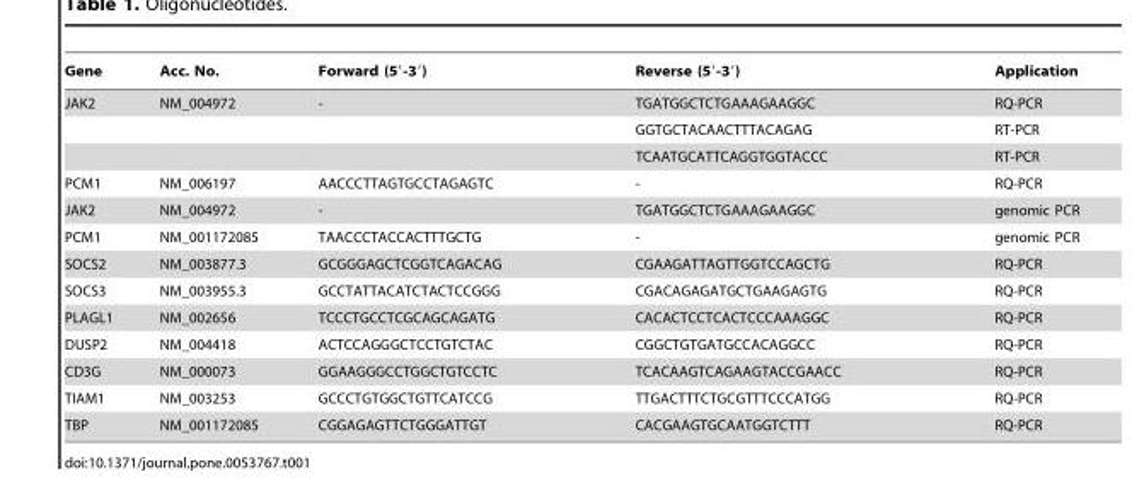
<table><thead><tr><td>Gene</td><td>Acc. No.</td><td>Forward (5′-3′)</td><td>Reverse (5′-3′)</td><td>Application</td></tr></thead><tbody><tr><td rowspan="3">JAK2</td><td>NM_004972</td><td>-</td><td>TGATGGCTCTGAAAGAAGGC</td><td>RQ-PCR</td></tr><tr><td></td><td></td><td>GGTGCTACAACTTTACAGAG</td><td>RT-PCR</td></tr><tr><td></td><td></td><td>TCAATGCATTCAGGTGGTACCC</td><td>RT-PCR</td></tr><tr><td>PCM1</td><td>NM_006197</td><td>AACCCTTAGTGCCTAGAGTC</td><td>-</td><td>RQ-PCR</td></tr><tr><td>JAK2</td><td>NM_004972</td><td>-</td><td>TGATGGCTCTGAAAGAAGGC</td><td>genomic PCR</td></tr><tr><td>PCM1</td><td>NM_001172085</td><td>TAACCCTACCACTTTGCTG</td><td>-</td><td>genomic PCR</td></tr><tr><td>SOCS2</td><td>NM_003877.3</td><td>GCGGGAGCTCGGTCAGACAG</td><td>CGAAGATTAGTTGGTCCAGCTG</td><td>RQ-PCR</td></tr><tr><td>SOCS3</td><td>NM_003955.3</td><td>GCCTATTACATCTACTCCGGG</td><td>CGACAGAGATGCTGAAGAGTG</td><td>RQ-PCR</td></tr><tr><td>PLAGL1</td><td>NM_002656</td><td>TCCCTGCCTCGCAGCAGATG</td><td>CACACTCCTCACTCCCAAAGGC</td><td>RQ-PCR</td></tr><tr><td>DUSP2</td><td>NM_004418</td><td>ACTCCAGGGCTCCTGTCTAC</td><td>CGGCTGTGATGCCACAGGCC</td><td>RQ-PCR</td></tr><tr><td>CD3G</td><td>NM_000073</td><td>GGAAGGGCCTGGCTGTCCTC</td><td>TCACAAGTCAGAAGTACCGAACC</td><td>RQ-PCR</td></tr><tr><td>TIAM1</td><td>NM_003253</td><td>GCCCTGTGGCTGTTCATCCG</td><td>TTGACTTTCTGCGTTTCCCATGG</td><td>RQ-PCR</td></tr><tr><td>TBP</td><td>NM_001172085</td><td>CGGAGAGTTCTGGGATTGT</td><td>CACGAAGTGCAATGGTCTTT</td><td>RQ-PCR</td></tr></tbody></table>